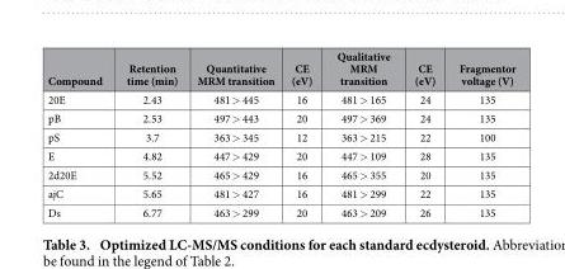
<table><thead><tr><td>Compound</td><td>Retention time (min)</td><td>Quantitative MRM transition</td><td>CE (eV)</td><td>Qualitative MRM transition</td><td>CE (eV)</td><td>Fragmentor voltage (V)</td></tr></thead><tbody><tr><td>20E</td><td>2.43</td><td>481 &gt; 445</td><td>16</td><td>481 &gt; 165</td><td>24</td><td>135</td></tr><tr><td>pB</td><td>2.53</td><td>497 &gt; 443</td><td>20</td><td>497 &gt; 369</td><td>24</td><td>135</td></tr><tr><td>pS</td><td>3.7</td><td>363 &gt; 345</td><td>12</td><td>363 &gt; 215</td><td>22</td><td>100</td></tr><tr><td>E</td><td>4.82</td><td>447 &gt; 429</td><td>20</td><td>447 &gt; 109</td><td>28</td><td>135</td></tr><tr><td>2d20E</td><td>5.52</td><td>465 &gt; 429</td><td>16</td><td>465 &gt; 355</td><td>20</td><td>135</td></tr><tr><td>ajC</td><td>5.65</td><td>481 &gt; 427</td><td>16</td><td>481 &gt; 299</td><td>22</td><td>135</td></tr><tr><td>Ds</td><td>6.77</td><td>463 &gt; 299</td><td>20</td><td>463 &gt; 209</td><td>26</td><td>135</td></tr></tbody></table>